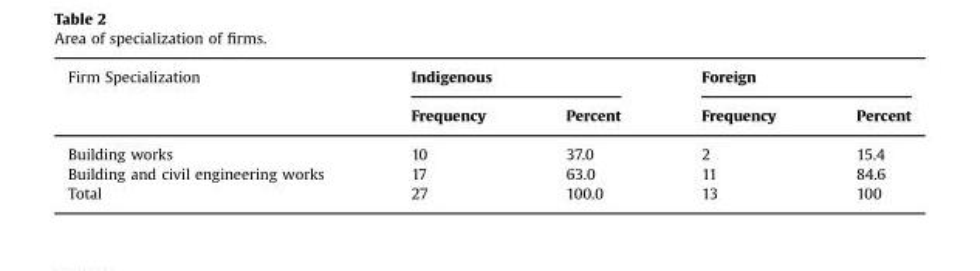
<table><thead><tr><td rowspan="2">Firm Specialization</td><td colspan="2">Indigenous</td><td colspan="2">Foreign</td></tr><tr><td>Frequency</td><td>Percent</td><td>Frequency</td><td>Percent</td></tr></thead><tbody><tr><td>Building works</td><td>10</td><td>37.0</td><td>2</td><td>15.4</td></tr><tr><td>Building and civil engineering works</td><td>17</td><td>63.0</td><td>11</td><td>84.6</td></tr><tr><td>Total</td><td>27</td><td>100.0</td><td>13</td><td>100</td></tr></tbody></table>